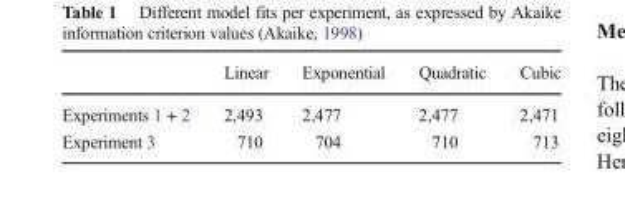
<table><thead><tr><td></td><td>Linear</td><td>Exponential</td><td>Quadratic</td><td>Cubic</td></tr></thead><tbody><tr><td>Experiments 1 + 2</td><td>2,493</td><td>2,477</td><td>2,477</td><td>2,471</td></tr><tr><td>Experiment 3</td><td>710</td><td>704</td><td>710</td><td>713</td></tr></tbody></table>